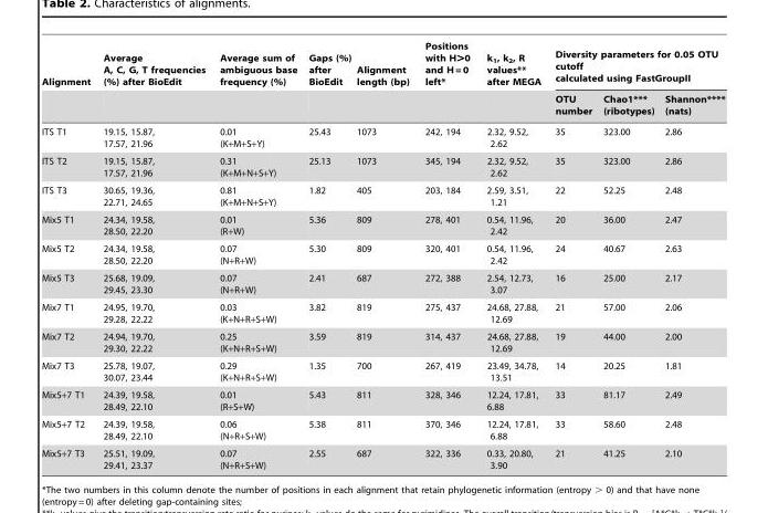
<table><thead><tr><td rowspan="2">Alignment</td><td rowspan="2">Average A, C, G, T frequencies (%) after BioEdit</td><td rowspan="2">Average sum of ambiguous base frequency (%)</td><td rowspan="2">Gaps (%) after BioEdit</td><td rowspan="2">Alignment length (bp)</td><td rowspan="2">Positions with H&gt;0 and H = 0 left*</td><td rowspan="2">k<sub>1</sub>, k<sub>2</sub>, R values** after MEGA</td><td colspan="3">Diversity parameters for 0.05 OTU cutoff calculated using FastGroupII</td></tr><tr><td>OTU number</td><td>Chao1*** (ribotypes)</td><td>Shannon**** (nats)</td></tr></thead><tbody><tr><td>ITS T1</td><td>19.15, 15.87, 17.57, 21.96</td><td>0.01 (K+M+S+Y)</td><td>25.43</td><td>1073</td><td>242, 194</td><td>2.32, 9.52, 2.62</td><td>35</td><td>323.00</td><td>2.86</td></tr><tr><td>ITS T2</td><td>19.15, 15.87, 17.57, 21.96</td><td>0.31 (K+M+N+S+Y)</td><td>25.13</td><td>1073</td><td>345, 194</td><td>2.32, 9.52, 2.62</td><td>35</td><td>323.00</td><td>2.86</td></tr><tr><td>ITS T3</td><td>30.65, 19.36, 22.71, 24.65</td><td>0.81 (K+M+N+S+Y)</td><td>1.82</td><td>405</td><td>203, 184</td><td>2.59, 3.51, 1.21</td><td>22</td><td>52.25</td><td>2.48</td></tr><tr><td>Mix5 T1</td><td>24.34, 19.58, 28.50, 22.20</td><td>0.01 (R+W)</td><td>5.36</td><td>809</td><td>278, 401</td><td>0.54, 11.96, 2.42</td><td>20</td><td>36.00</td><td>2.47</td></tr><tr><td>Mix5 T2</td><td>24.34, 19.58, 28.50, 22.20</td><td>0.07 (N+R+W)</td><td>5.30</td><td>809</td><td>320, 401</td><td>0.54, 11.96, 2.42</td><td>24</td><td>40.67</td><td>2.63</td></tr><tr><td>Mix5 T3</td><td>25.68, 19.09, 29.45, 23.30</td><td>0.07 (N+R+W)</td><td>2.41</td><td>687</td><td>272, 388</td><td>2.54, 12.73, 3.07</td><td>16</td><td>25.00</td><td>2.17</td></tr><tr><td>Mix7 T1</td><td>24.95, 19.70, 29.28, 22.22</td><td>0.03 (K+N+R+S+W)</td><td>3.82</td><td>819</td><td>275, 437</td><td>24.68, 27.88, 12.69</td><td>21</td><td>57.00</td><td>2.06</td></tr><tr><td>Mix7 T2</td><td>24.94, 19.70, 29.30, 22.22</td><td>0.25 (K+N+R+S+W)</td><td>3.59</td><td>819</td><td>314, 437</td><td>24.68, 27.88, 12.69</td><td>19</td><td>44.00</td><td>2.00</td></tr><tr><td>Mix7 T3</td><td>25.78, 19.07, 30.07, 23.44</td><td>0.29 (K+N+R+S+W)</td><td>1.35</td><td>700</td><td>267, 419</td><td>23.49, 34.78, 13.51</td><td>14</td><td>20.25</td><td>1.81</td></tr><tr><td>Mix5+7 T1</td><td>24.39, 19.58, 28.49, 22.10</td><td>0.01 (R+S+W)</td><td>5.43</td><td>811</td><td>328, 346</td><td>12.24, 17.81, 6.88</td><td>33</td><td>81.17</td><td>2.49</td></tr><tr><td>Mix5+7 T2</td><td>24.39, 19.58, 28.49, 22.10</td><td>0.06 (N+R+S+W)</td><td>5.38</td><td>811</td><td>370, 346</td><td>12.24, 17.81, 6.88</td><td>33</td><td>58.60</td><td>2.48</td></tr><tr><td>Mix5+7 T3</td><td>25.51, 19.09, 29.41, 23.37</td><td>0.07 (N+R+S+W)</td><td>2.55</td><td>687</td><td>322, 336</td><td>0.33, 20.80, 3.90</td><td>21</td><td>41.25</td><td>2.10</td></tr></tbody></table>